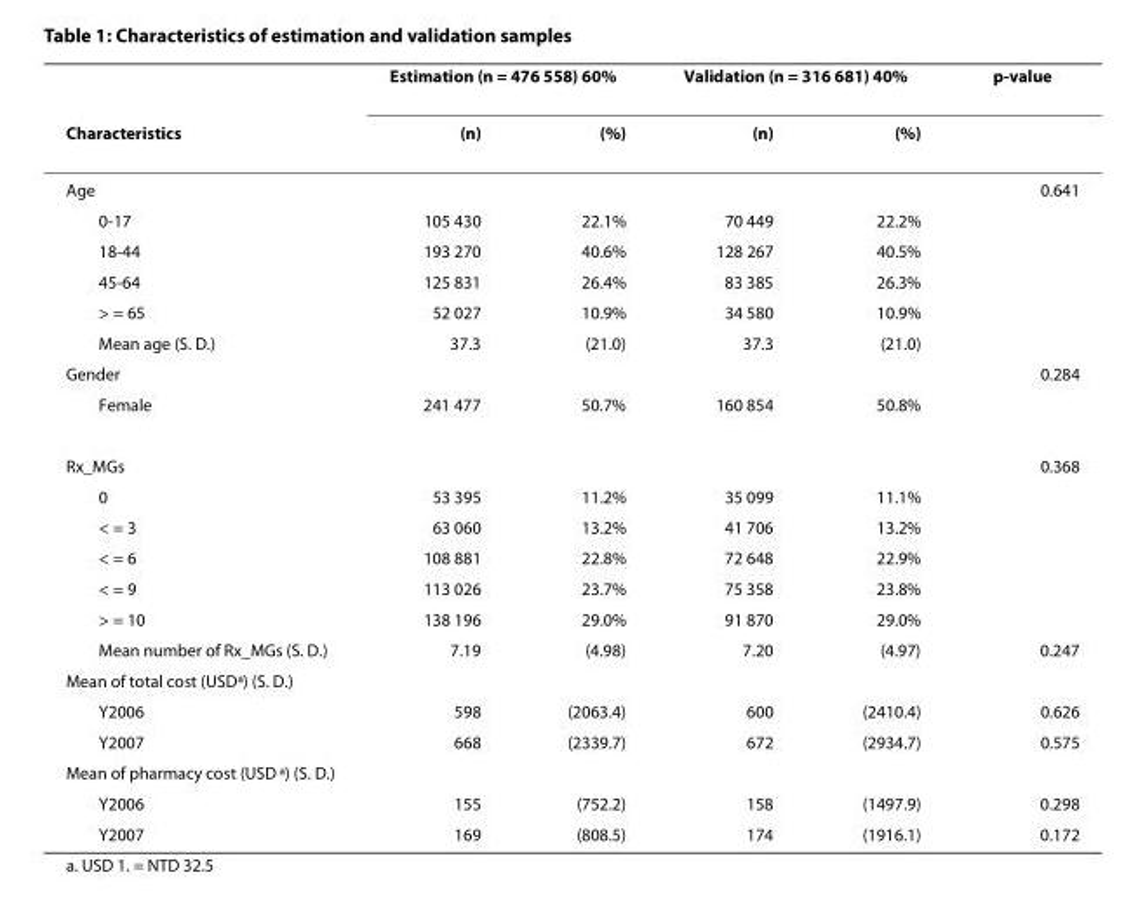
<table><thead><tr><td rowspan="2">Characteristics</td><td colspan="2">Estimation (n = 476 558) 60%</td><td colspan="2">Validation (n = 316 681) 40%</td><td rowspan="2">p-value</td></tr><tr><td>(n)</td><td>(%)</td><td>(n)</td><td>(%)</td></tr></thead><tbody><tr><td>Age</td><td></td><td></td><td></td><td></td><td>0.641</td></tr><tr><td>0-17</td><td>105 430</td><td>22.1%</td><td>70 449</td><td>22.2%</td><td></td></tr><tr><td>18-44</td><td>193 270</td><td>40.6%</td><td>128 267</td><td>40.5%</td><td></td></tr><tr><td>45-64</td><td>125 831</td><td>26.4%</td><td>83 385</td><td>26.3%</td><td></td></tr><tr><td>&gt; = 65</td><td>52 027</td><td>10.9%</td><td>34 580</td><td>10.9%</td><td></td></tr><tr><td>Mean age (S. D.)</td><td>37.3</td><td>(21.0)</td><td>37.3</td><td>(21.0)</td><td></td></tr><tr><td>Gender</td><td></td><td></td><td></td><td></td><td>0.284</td></tr><tr><td>Female</td><td>241 477</td><td>50.7%</td><td>160 854</td><td>50.8%</td><td></td></tr><tr><td>Rx_MGs</td><td></td><td></td><td></td><td></td><td>0.368</td></tr><tr><td>0</td><td>53 395</td><td>11.2%</td><td>35 099</td><td>11.1%</td><td></td></tr><tr><td>&lt; = 3</td><td>63 060</td><td>13.2%</td><td>41 706</td><td>13.2%</td><td></td></tr><tr><td>&lt; = 6</td><td>108 881</td><td>22.8%</td><td>72 648</td><td>22.9%</td><td></td></tr><tr><td>&lt; = 9</td><td>113 026</td><td>23.7%</td><td>75 358</td><td>23.8%</td><td></td></tr><tr><td>&gt; = 10</td><td>138 196</td><td>29.0%</td><td>91 870</td><td>29.0%</td><td></td></tr><tr><td>Mean number of Rx_MGs (S. D.)</td><td>7.19</td><td>(4.98)</td><td>7.20</td><td>(4.97)</td><td>0.247</td></tr><tr><td colspan="6">Mean of total cost (USD<sup>a</sup>) (S. D.)</td></tr><tr><td>Y2006</td><td>598</td><td>(2063.4)</td><td>600</td><td>(2410.4)</td><td>0.626</td></tr><tr><td>Y2007</td><td>668</td><td>(2339.7)</td><td>672</td><td>(2934.7)</td><td>0.575</td></tr><tr><td colspan="6">Mean of pharmacy cost (USD <sup>a</sup>) (S. D.)</td></tr><tr><td>Y2006</td><td>155</td><td>(752.2)</td><td>158</td><td>(1497.9)</td><td>0.298</td></tr><tr><td>Y2007</td><td>169</td><td>(808.5)</td><td>174</td><td>(1916.1)</td><td>0.172</td></tr></tbody></table>